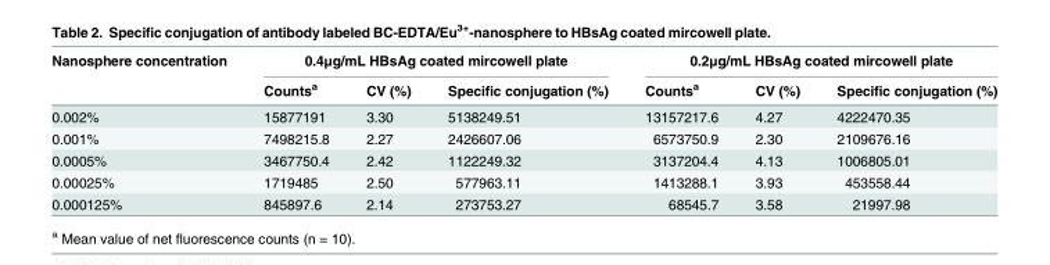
<table><thead><tr><td rowspan="2">Nanosphere concentration</td><td colspan="3">0.4μg/mL HBsAg coated mircowell plate</td><td colspan="3">0.2μg/mL HBsAg coated mircowell plate</td></tr><tr><td>Counts<sup>a</sup></td><td>CV (%)</td><td>Specific conjugation (%)</td><td>Counts<sup>a</sup></td><td>CV (%)</td><td>Specific conjugation (%)</td></tr></thead><tbody><tr><td>0.002%</td><td>15877191</td><td>3.30</td><td>5138249.51</td><td>13157217.6</td><td>4.27</td><td>4222470.35</td></tr><tr><td>0.001%</td><td>7498215.8</td><td>2.27</td><td>2426607.06</td><td>6573750.9</td><td>2.30</td><td>2109676.16</td></tr><tr><td>0.0005%</td><td>3467750.4</td><td>2.42</td><td>1122249.32</td><td>3137204.4</td><td>4.13</td><td>1006805.01</td></tr><tr><td>0.00025%</td><td>1719485</td><td>2.50</td><td>577963.11</td><td>1413288.1</td><td>3.93</td><td>453558.44</td></tr><tr><td>0.000125%</td><td>845897.6</td><td>2.14</td><td>273753.27</td><td>68545.7</td><td>3.58</td><td>21997.98</td></tr></tbody></table>